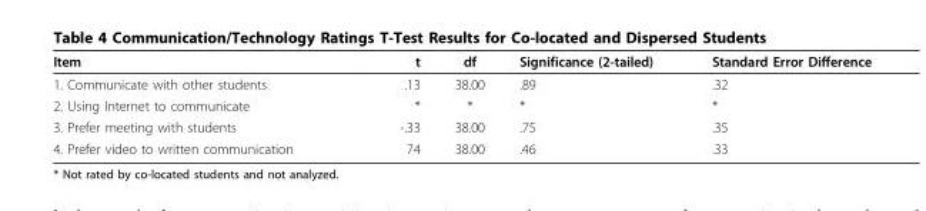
<table><thead><tr><td>Item</td><td>t</td><td>df</td><td>Significance (2-tailed)</td><td>Standard Error Difference</td></tr></thead><tbody><tr><td>1. Communicate with other students</td><td>.13</td><td>38.00</td><td>.89</td><td>.32</td></tr><tr><td>2. Using Internet to communicate</td><td>*</td><td>*</td><td>*</td><td>*</td></tr><tr><td>3. Prefer meeting with students</td><td>-.33</td><td>38.00</td><td>.75</td><td>.35</td></tr><tr><td>4. Prefer video to written communication</td><td>74</td><td>38.00</td><td>.46</td><td>.33</td></tr></tbody></table>